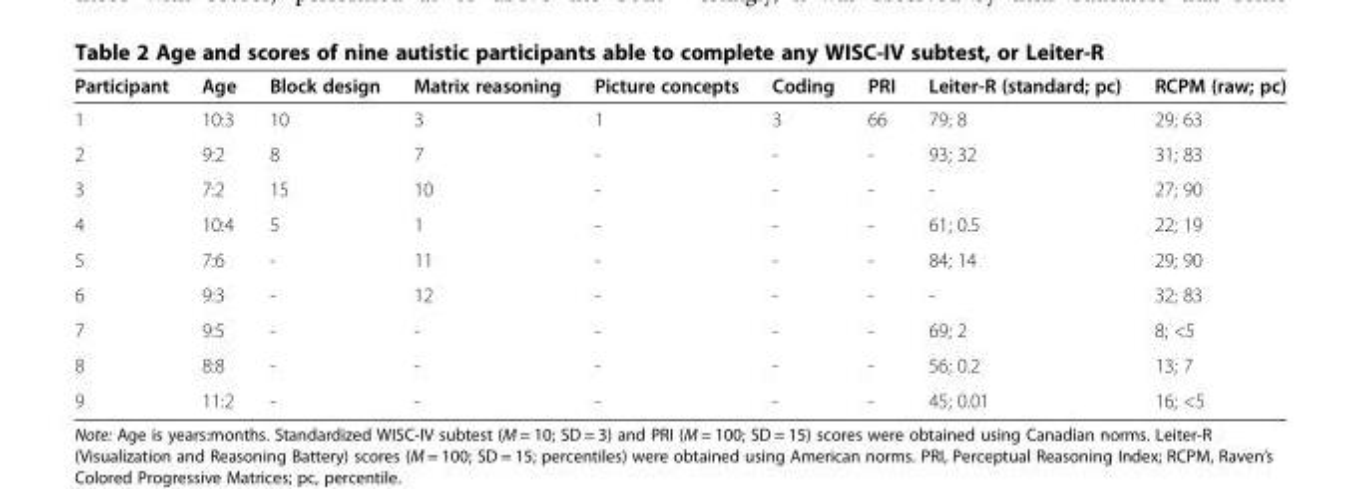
<table><thead><tr><td>Participant</td><td>Age</td><td>Block design</td><td>Matrix reasoning</td><td>Picture concepts</td><td>Coding</td><td>PRI</td><td>Leiter-R (standard; pc)</td><td>RCPM (raw; pc)</td></tr></thead><tbody><tr><td>1</td><td>10:3</td><td>10</td><td>3</td><td>1</td><td>3</td><td>66</td><td>79; 8</td><td>29; 63</td></tr><tr><td>2</td><td>9:2</td><td>8</td><td>7</td><td>-</td><td>-</td><td>-</td><td>93; 32</td><td>31; 83</td></tr><tr><td>3</td><td>7:2</td><td>15</td><td>10</td><td>-</td><td>-</td><td>-</td><td>-</td><td>27; 90</td></tr><tr><td>4</td><td>10:4</td><td>5</td><td>1</td><td>-</td><td>-</td><td>-</td><td>61; 0.5</td><td>22; 19</td></tr><tr><td>5</td><td>7:6</td><td>-</td><td>11</td><td>-</td><td>-</td><td>-</td><td>84; 14</td><td>29; 90</td></tr><tr><td>6</td><td>9:3</td><td>-</td><td>12</td><td>-</td><td>-</td><td>-</td><td>-</td><td>32; 83</td></tr><tr><td>7</td><td>9:5</td><td>-</td><td>-</td><td>-</td><td>-</td><td>-</td><td>69; 2</td><td>8; &lt;5</td></tr><tr><td>8</td><td>8:8</td><td>-</td><td>-</td><td>-</td><td>-</td><td>-</td><td>56; 0.2</td><td>13; 7</td></tr><tr><td>9</td><td>11:2</td><td>-</td><td>-</td><td>-</td><td>-</td><td>-</td><td>45; 0.01</td><td>16; &lt;5</td></tr></tbody></table>